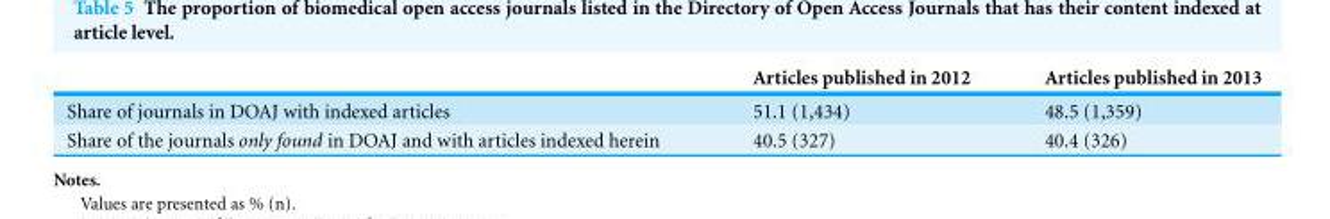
<table><thead><tr><td></td><td>Articles published in 2012</td><td>Articles published in 2013</td></tr></thead><tbody><tr><td>Share of journals in DOAJ with indexed articles</td><td>51.1 (1,434)</td><td>48.5 (1,359)</td></tr><tr><td>Share of the journals only found in DOAJ and with articles indexed herein</td><td>40.5 (327)</td><td>40.4 (326)</td></tr></tbody></table>